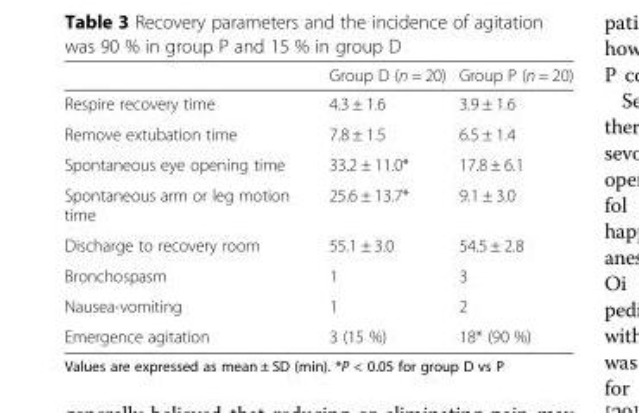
<table><thead><tr><td></td><td>Group D (n = 20)</td><td>Group P (n = 20)</td></tr></thead><tbody><tr><td>Respire recovery time</td><td>4.3 ± 1.6</td><td>3.9 ± 1.6</td></tr><tr><td>Remove extubation time</td><td>7.8 ± 1.5</td><td>6.5 ± 1.4</td></tr><tr><td>Spontaneous eye opening time</td><td>33.2 ± 11.0*</td><td>17.8 ± 6.1</td></tr><tr><td>Spontaneous arm or leg motion time</td><td>25.6 ± 13.7*</td><td>9.1 ± 3.0</td></tr><tr><td>Discharge to recovery room</td><td>55.1 ± 3.0</td><td>54.5 ± 2.8</td></tr><tr><td>Bronchospasm</td><td>1</td><td>3</td></tr><tr><td>Nausea-vomiting</td><td>1</td><td>2</td></tr><tr><td>Emergence agitation</td><td>3 (15 %)</td><td>18* (90 %)</td></tr></tbody></table>